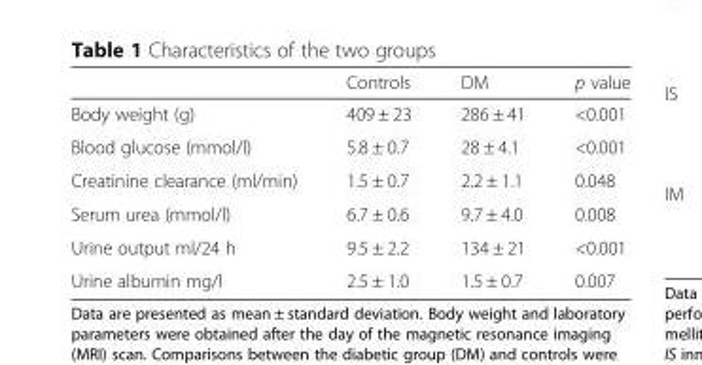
<table><thead><tr><td></td><td>Controls</td><td>DM</td><td>p value</td></tr></thead><tbody><tr><td>Body weight (g)</td><td>409 ± 23</td><td>286 ± 41</td><td>&lt;0.001</td></tr><tr><td>Blood glucose (mmol/l)</td><td>5.8 ± 0.7</td><td>28 ± 4.1</td><td>&lt;0.001</td></tr><tr><td>Creatinine clearance (ml/min)</td><td>1.5 ± 0.7</td><td>2.2 ± 1.1</td><td>0.048</td></tr><tr><td>Serum urea (mmol/l)</td><td>6.7 ± 0.6</td><td>9.7 ± 4.0</td><td>0.008</td></tr><tr><td>Urine output ml/24 h</td><td>9.5 ± 2.2</td><td>134 ± 21</td><td>&lt;0.001</td></tr><tr><td>Urine albumin mg/l</td><td>2.5 ± 1.0</td><td>1.5 ± 0.7</td><td>0.007</td></tr></tbody></table>